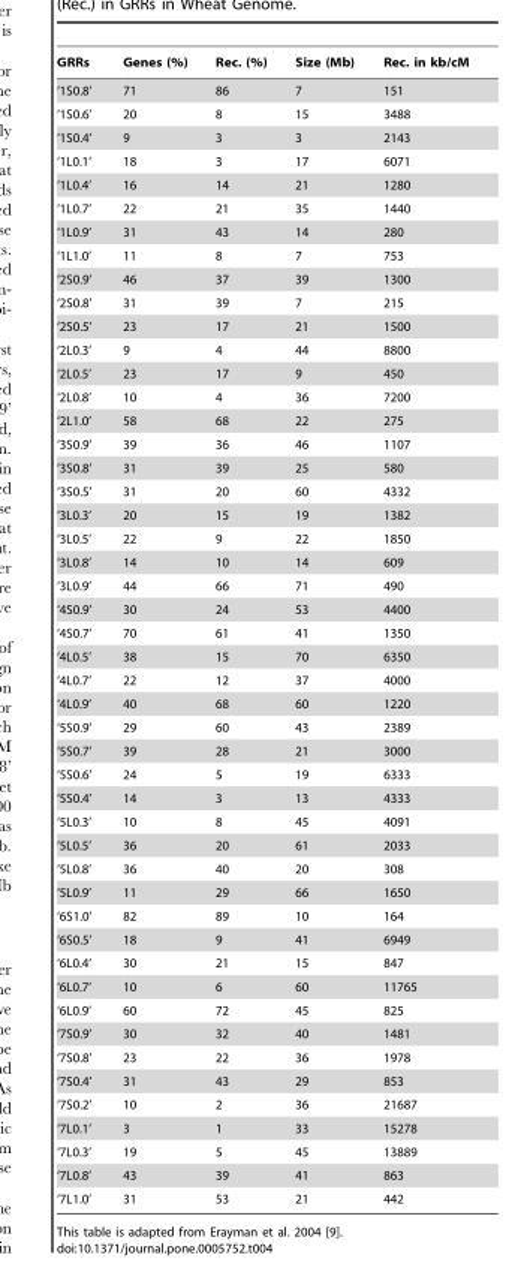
<table><thead><tr><td>GRRs</td><td>Genes (%)</td><td>Rec. (%)</td><td>Size (Mb)</td><td>Rec. in kb/cM</td></tr></thead><tbody><tr><td>‘1S0.8’</td><td>71</td><td>86</td><td>7</td><td>151</td></tr><tr><td>‘1S0.6’</td><td>20</td><td>8</td><td>15</td><td>3488</td></tr><tr><td>‘1S0.4’</td><td>9</td><td>3</td><td>3</td><td>2143</td></tr><tr><td>‘1L0.1’</td><td>18</td><td>3</td><td>17</td><td>6071</td></tr><tr><td>‘1L0.4’</td><td>16</td><td>14</td><td>21</td><td>1280</td></tr><tr><td>‘1L0.7’</td><td>22</td><td>21</td><td>35</td><td>1440</td></tr><tr><td>‘1L0.9’</td><td>31</td><td>43</td><td>14</td><td>280</td></tr><tr><td>‘1L1.0’</td><td>11</td><td>8</td><td>7</td><td>753</td></tr><tr><td>‘2S0.9’</td><td>46</td><td>37</td><td>39</td><td>1300</td></tr><tr><td>‘2S0.8’</td><td>31</td><td>39</td><td>7</td><td>215</td></tr><tr><td>‘2S0.5’</td><td>23</td><td>17</td><td>21</td><td>1500</td></tr><tr><td>‘2L0.3’</td><td>9</td><td>4</td><td>44</td><td>8800</td></tr><tr><td>‘2L0.5’</td><td>23</td><td>17</td><td>9</td><td>450</td></tr><tr><td>‘2L0.8’</td><td>10</td><td>4</td><td>36</td><td>7200</td></tr><tr><td>‘2L1.0’</td><td>58</td><td>68</td><td>22</td><td>275</td></tr><tr><td>‘3S0.9’</td><td>39</td><td>36</td><td>46</td><td>1107</td></tr><tr><td>‘3S0.8’</td><td>31</td><td>39</td><td>25</td><td>580</td></tr><tr><td>‘3S0.5’</td><td>31</td><td>20</td><td>60</td><td>4332</td></tr><tr><td>‘3L0.3’</td><td>20</td><td>15</td><td>19</td><td>1382</td></tr><tr><td>‘3L0.5’</td><td>22</td><td>9</td><td>22</td><td>1850</td></tr><tr><td>‘3L0.8’</td><td>14</td><td>10</td><td>14</td><td>609</td></tr><tr><td>‘3L0.9’</td><td>44</td><td>66</td><td>71</td><td>490</td></tr><tr><td>‘4S0.9’</td><td>30</td><td>24</td><td>53</td><td>4400</td></tr><tr><td>‘4S0.7’</td><td>70</td><td>61</td><td>41</td><td>1350</td></tr><tr><td>‘4L0.5’</td><td>38</td><td>15</td><td>70</td><td>6350</td></tr><tr><td>‘4L0.7’</td><td>22</td><td>12</td><td>37</td><td>4000</td></tr><tr><td>‘4L0.9’</td><td>40</td><td>68</td><td>60</td><td>1220</td></tr><tr><td>‘5S0.9’</td><td>29</td><td>60</td><td>43</td><td>2389</td></tr><tr><td>‘5S0.7’</td><td>39</td><td>28</td><td>21</td><td>3000</td></tr><tr><td>‘5S0.6’</td><td>24</td><td>5</td><td>19</td><td>6333</td></tr><tr><td>‘5S0.4’</td><td>14</td><td>3</td><td>13</td><td>4333</td></tr><tr><td>‘5L0.3’</td><td>10</td><td>8</td><td>45</td><td>4091</td></tr><tr><td>‘5L0.5’</td><td>36</td><td>20</td><td>61</td><td>2033</td></tr><tr><td>‘5L0.8’</td><td>36</td><td>40</td><td>20</td><td>308</td></tr><tr><td>‘5L0.9’</td><td>11</td><td>29</td><td>66</td><td>1650</td></tr><tr><td>‘6S1.0’</td><td>82</td><td>89</td><td>10</td><td>164</td></tr><tr><td>‘6S0.5’</td><td>18</td><td>9</td><td>41</td><td>6949</td></tr><tr><td>‘6L0.4’</td><td>30</td><td>21</td><td>15</td><td>847</td></tr><tr><td>‘6L0.7’</td><td>10</td><td>6</td><td>60</td><td>11765</td></tr><tr><td>‘6L0.9’</td><td>60</td><td>72</td><td>45</td><td>825</td></tr><tr><td>‘7S0.9’</td><td>30</td><td>32</td><td>40</td><td>1481</td></tr><tr><td>‘7S0.8’</td><td>23</td><td>22</td><td>36</td><td>1978</td></tr><tr><td>‘7S0.4’</td><td>31</td><td>43</td><td>29</td><td>853</td></tr><tr><td>‘7S0.2’</td><td>10</td><td>2</td><td>36</td><td>21687</td></tr><tr><td>‘7L0.1’</td><td>3</td><td>1</td><td>33</td><td>15278</td></tr><tr><td>‘7L0.3’</td><td>19</td><td>5</td><td>45</td><td>13889</td></tr><tr><td>‘7L0.8’</td><td>43</td><td>39</td><td>41</td><td>863</td></tr><tr><td>‘7L1.0’</td><td>31</td><td>53</td><td>21</td><td>442</td></tr></tbody></table>